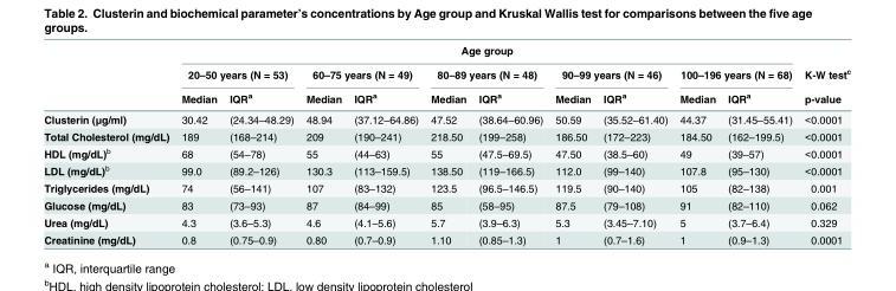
<table><thead><tr><td rowspan="3"></td><td colspan="10">Age group</td><td rowspan="3">K-W test<sup>c</sup> p-value</td></tr><tr><td colspan="2">20–50 years (N = 53)</td><td colspan="2">60–75 years (N = 49)</td><td colspan="2">80–89 years (N = 48)</td><td colspan="2">90–99 years (N = 46)</td><td colspan="2">100–196 years (N = 68)</td></tr><tr><td>Median</td><td>IQR<sup>a</sup></td><td>Median</td><td>IQR<sup>a</sup></td><td>Median</td><td>IQR<sup>a</sup></td><td>Median</td><td>IQR<sup>a</sup></td><td>Median</td><td>IQR<sup>a</sup></td></tr></thead><tbody><tr><td>Clusterin (μg/ml)</td><td>30.42</td><td>(24.34–48.29)</td><td>48.94</td><td>(37.12–64.86)</td><td>47.52</td><td>(38.64–60.96)</td><td>50.59</td><td>(35.52–61.40)</td><td>44.37</td><td>(31.45–55.41)</td><td>&lt;0.0001</td></tr><tr><td>Total Cholesterol (mg/dL)</td><td>189</td><td>(168–214)</td><td>209</td><td>(190–241)</td><td>218.50</td><td>(199–258)</td><td>186.50</td><td>(172–223)</td><td>184.50</td><td>(162–199.5)</td><td>&lt;0.0001</td></tr><tr><td>HDL (mg/dL)<sup>b</sup></td><td>68</td><td>(54–78)</td><td>55</td><td>(44–63)</td><td>55</td><td>(47.5–69.5)</td><td>47.50</td><td>(38.5–60)</td><td>49</td><td>(39–57)</td><td>&lt;0.0001</td></tr><tr><td>LDL (mg/dL)<sup>b</sup></td><td>99.0</td><td>(89.2–126)</td><td>130.3</td><td>(113–159.5)</td><td>138.50</td><td>(119–166.5)</td><td>112.0</td><td>(99–140)</td><td>107.8</td><td>(95–130)</td><td>&lt;0.0001</td></tr><tr><td>Triglycerides (mg/dL)</td><td>74</td><td>(56–141)</td><td>107</td><td>(83–132)</td><td>123.5</td><td>(96.5–146.5)</td><td>119.5</td><td>(90–140)</td><td>105</td><td>(82–138)</td><td>0.001</td></tr><tr><td>Glucose (mg/dL)</td><td>83</td><td>(73–93)</td><td>87</td><td>(84–99)</td><td>85</td><td>(58–95)</td><td>87.5</td><td>(79–108)</td><td>91</td><td>(82–110)</td><td>0.062</td></tr><tr><td>Urea (mg/dL)</td><td>4.3</td><td>(3.6–5.3)</td><td>4.6</td><td>(4.1–5.6)</td><td>5.7</td><td>(3.9–6.3)</td><td>5.3</td><td>(3.45–7.10)</td><td>5</td><td>(3.7–6.4)</td><td>0.329</td></tr><tr><td>Creatinine (mg/dL)</td><td>0.8</td><td>(0.75–0.9)</td><td>0.80</td><td>(0.7–0.9)</td><td>1.10</td><td>(0.85–1.3)</td><td>1</td><td>(0.7–1.6)</td><td>1</td><td>(0.9–1.3)</td><td>0.0001</td></tr></tbody></table>